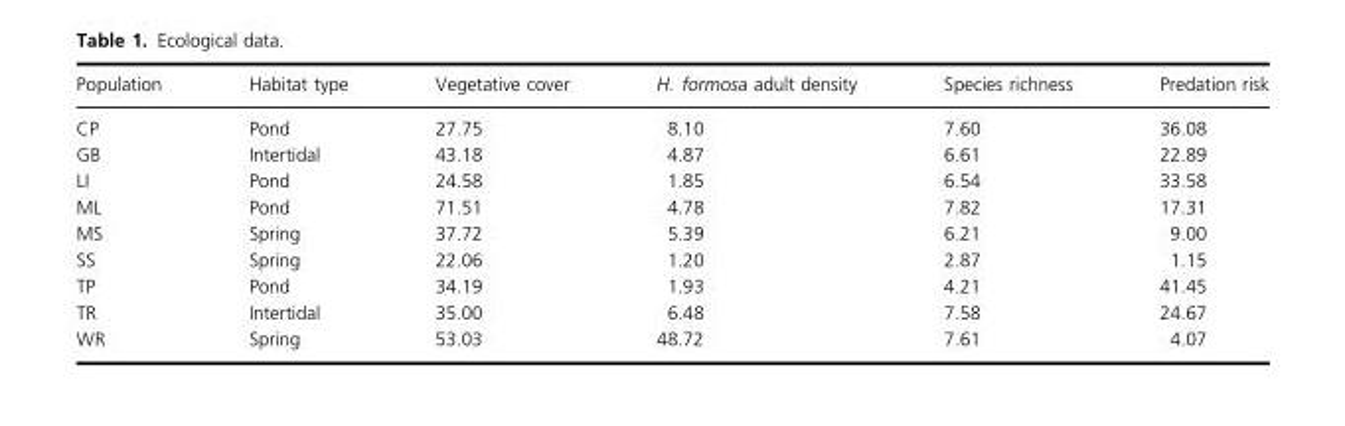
<table><thead><tr><td>Population</td><td>Habitat type</td><td>Vegetative cover</td><td>H. formosa adult density</td><td>Species richness</td><td>Predation risk</td></tr></thead><tbody><tr><td>CP</td><td>Pond</td><td>27.75</td><td>8.10</td><td>7.60</td><td>36.08</td></tr><tr><td>GB</td><td>Intertidal</td><td>43.18</td><td>4.87</td><td>6.61</td><td>22.89</td></tr><tr><td>LI</td><td>Pond</td><td>24.58</td><td>1.85</td><td>6.54</td><td>33.58</td></tr><tr><td>ML</td><td>Pond</td><td>71.51</td><td>4.78</td><td>7.82</td><td>17.31</td></tr><tr><td>MS</td><td>Spring</td><td>37.72</td><td>5.39</td><td>6.21</td><td>9.00</td></tr><tr><td>SS</td><td>Spring</td><td>22.06</td><td>1.20</td><td>2.87</td><td>1.15</td></tr><tr><td>TP</td><td>Pond</td><td>34.19</td><td>1.93</td><td>4.21</td><td>41.45</td></tr><tr><td>TR</td><td>Intertidal</td><td>35.00</td><td>6.48</td><td>7.58</td><td>24.67</td></tr><tr><td>WR</td><td>Spring</td><td>53.03</td><td>48.72</td><td>7.61</td><td>4.07</td></tr></tbody></table>